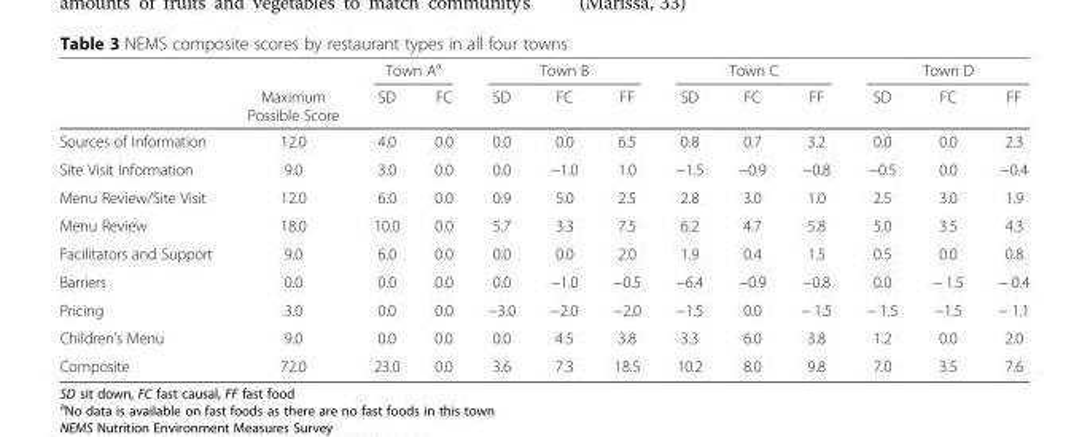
<table><thead><tr><td rowspan="2"></td><td rowspan="2">Maximum Possible Score</td><td colspan="2">Town A<sup>a</sup></td><td colspan="3">Town B</td><td colspan="3">Town C</td><td colspan="3">Town D</td></tr><tr><td>SD</td><td>FC</td><td>SD</td><td>FC</td><td>FF</td><td>SD</td><td>FC</td><td>FF</td><td>SD</td><td>FC</td><td>FF</td></tr></thead><tbody><tr><td>Sources of Information</td><td>12.0</td><td>4.0</td><td>0.0</td><td>0.0</td><td>0.0</td><td>6.5</td><td>0.8</td><td>0.7</td><td>3.2</td><td>0.0</td><td>0.0</td><td>2.3</td></tr><tr><td>Site Visit Information</td><td>9.0</td><td>3.0</td><td>0.0</td><td>0.0</td><td>−1.0</td><td>1.0</td><td>−1.5</td><td>−0.9</td><td>−0.8</td><td>−0.5</td><td>0.0</td><td>−0.4</td></tr><tr><td>Menu Review/Site Visit</td><td>12.0</td><td>6.0</td><td>0.0</td><td>0.9</td><td>5.0</td><td>2.5</td><td>2.8</td><td>3.0</td><td>1.0</td><td>2.5</td><td>3.0</td><td>1.9</td></tr><tr><td>Menu Review</td><td>18.0</td><td>10.0</td><td>0.0</td><td>5.7</td><td>3.3</td><td>7.5</td><td>6.2</td><td>4.7</td><td>5.8</td><td>5.0</td><td>3.5</td><td>4.3</td></tr><tr><td>Facilitators and Support</td><td>9.0</td><td>6.0</td><td>0.0</td><td>0.0</td><td>0.0</td><td>2.0</td><td>1.9</td><td>0.4</td><td>1.5</td><td>0.5</td><td>0.0</td><td>0.8</td></tr><tr><td>Barriers</td><td>0.0</td><td>0.0</td><td>0.0</td><td>0.0</td><td>−1.0</td><td>−0.5</td><td>−6.4</td><td>−0.9</td><td>−0.8</td><td>0.0</td><td>− 1.5</td><td>− 0.4</td></tr><tr><td>Pricing</td><td>3.0</td><td>0.0</td><td>0.0</td><td>−3.0</td><td>−2.0</td><td>−2.0</td><td>−1.5</td><td>0.0</td><td>− 1.5</td><td>− 1.5</td><td>−1.5</td><td>− 1.1</td></tr><tr><td>Children’s Menu</td><td>9.0</td><td>0.0</td><td>0.0</td><td>0.0</td><td>4.5</td><td>3.8</td><td>3.3</td><td>6.0</td><td>3.8</td><td>1.2</td><td>0.0</td><td>2.0</td></tr><tr><td>Composite</td><td>72.0</td><td>23.0</td><td>0.0</td><td>3.6</td><td>7.3</td><td>18.5</td><td>10.2</td><td>8.0</td><td>9.8</td><td>7.0</td><td>3.5</td><td>7.6</td></tr></tbody></table>